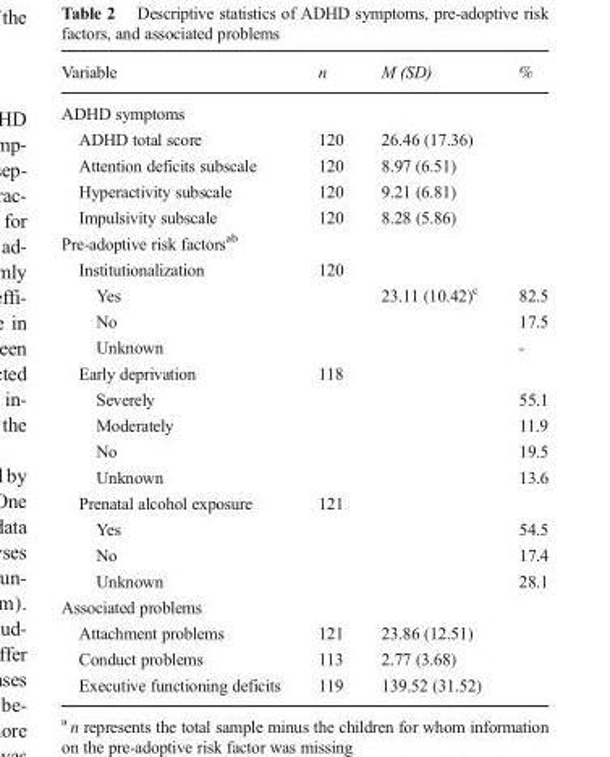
<table><thead><tr><td>Variable</td><td>n</td><td>M (SD)</td><td>%</td></tr></thead><tbody><tr><td colspan="4">ADHD symptoms</td></tr><tr><td>ADHD total score</td><td>120</td><td>26.46 (17.36)</td><td></td></tr><tr><td>Attention deficits subscale</td><td>120</td><td>8.97 (6.51)</td><td></td></tr><tr><td>Hyperactivity subscale</td><td>120</td><td>9.21 (6.81)</td><td></td></tr><tr><td>Impulsivity subscale</td><td>120</td><td>8.28 (5.86)</td><td></td></tr><tr><td colspan="4">Pre-adoptive risk factors<sup>ab</sup></td></tr><tr><td>Institutionalization</td><td>120</td><td></td><td></td></tr><tr><td>Yes</td><td></td><td>23.11 (10.42)<sup>c</sup></td><td>82.5</td></tr><tr><td>No</td><td></td><td></td><td>17.5</td></tr><tr><td>Unknown</td><td></td><td></td><td>-</td></tr><tr><td>Early deprivation</td><td>118</td><td></td><td></td></tr><tr><td>Severely</td><td></td><td></td><td>55.1</td></tr><tr><td>Moderately</td><td></td><td></td><td>11.9</td></tr><tr><td>No</td><td></td><td></td><td>19.5</td></tr><tr><td>Unknown</td><td></td><td></td><td>13.6</td></tr><tr><td>Prenatal alcohol exposure</td><td>121</td><td></td><td></td></tr><tr><td>Yes</td><td></td><td></td><td>54.5</td></tr><tr><td>No</td><td></td><td></td><td>17.4</td></tr><tr><td>Unknown</td><td></td><td></td><td>28.1</td></tr><tr><td colspan="4">Associated problems</td></tr><tr><td>Attachment problems</td><td>121</td><td>23.86 (12.51)</td><td></td></tr><tr><td>Conduct problems</td><td>113</td><td>2.77 (3.68)</td><td></td></tr><tr><td>Executive functioning deficits</td><td>119</td><td>139.52 (31.52)</td><td></td></tr></tbody></table>